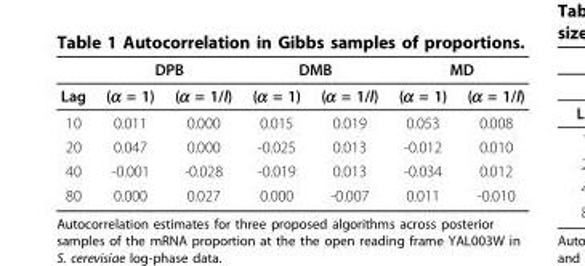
<table><thead><tr><td rowspan="2">Lag</td><td colspan="2">DPB</td><td colspan="2">DMB</td><td colspan="2">MD</td></tr><tr><td>(α = 1)</td><td>(α = 1/l)</td><td>(α = 1)</td><td>(α = 1/l)</td><td>(α = 1)</td><td>(α = 1/l)</td></tr></thead><tbody><tr><td>10</td><td>0.011</td><td>0.000</td><td>0.015</td><td>0.019</td><td>0.053</td><td>0.008</td></tr><tr><td>20</td><td>0.047</td><td>0.000</td><td>-0.025</td><td>0.013</td><td>-0.012</td><td>0.010</td></tr><tr><td>40</td><td>-0.001</td><td>-0.028</td><td>-0.019</td><td>0.013</td><td>-0.034</td><td>0.012</td></tr><tr><td>80</td><td>0.000</td><td>0.027</td><td>0.000</td><td>-0.007</td><td>0.011</td><td>-0.010</td></tr></tbody></table>